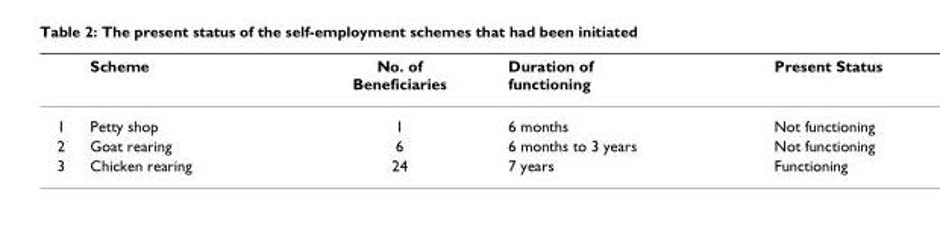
<table><thead><tr><td></td><td>Scheme</td><td>No. of Beneficiaries</td><td>Duration of functioning</td><td>Present Status</td></tr></thead><tbody><tr><td>1</td><td>Petty shop</td><td>1</td><td>6 months</td><td>Not functioning</td></tr><tr><td>2</td><td>Goat rearing</td><td>6</td><td>6 months to 3 years</td><td>Not functioning</td></tr><tr><td>3</td><td>Chicken rearing</td><td>24</td><td>7 years</td><td>Functioning</td></tr></tbody></table>